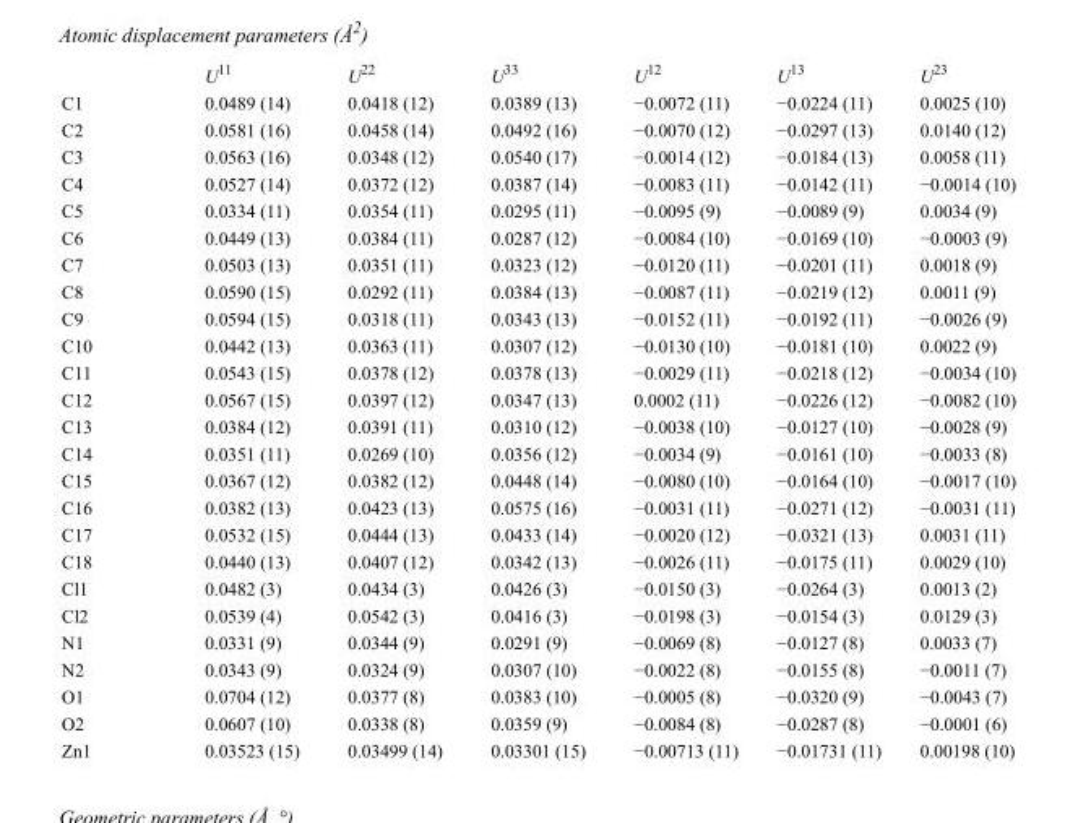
<table><thead><tr><td></td><td>U<sup>11</sup></td><td>U<sup>22</sup></td><td>U<sup>33</sup></td><td>U<sup>12</sup></td><td>U<sup>13</sup></td><td>U<sup>23</sup></td></tr></thead><tbody><tr><td>C1</td><td>0.0489 (14)</td><td>0.0418 (12)</td><td>0.0389 (13)</td><td>−0.0072 (11)</td><td>−0.0224 (11)</td><td>0.0025 (10)</td></tr><tr><td>C2</td><td>0.0581 (16)</td><td>0.0458 (14)</td><td>0.0492 (16)</td><td>−0.0070 (12)</td><td>−0.0297 (13)</td><td>0.0140 (12)</td></tr><tr><td>C3</td><td>0.0563 (16)</td><td>0.0348 (12)</td><td>0.0540 (17)</td><td>−0.0014 (12)</td><td>−0.0184 (13)</td><td>0.0058 (11)</td></tr><tr><td>C4</td><td>0.0527 (14)</td><td>0.0372 (12)</td><td>0.0387 (14)</td><td>−0.0083 (11)</td><td>−0.0142 (11)</td><td>−0.0014 (10)</td></tr><tr><td>C5</td><td>0.0334 (11)</td><td>0.0354 (11)</td><td>0.0295 (11)</td><td>−0.0095 (9)</td><td>−0.0089 (9)</td><td>0.0034 (9)</td></tr><tr><td>C6</td><td>0.0449 (13)</td><td>0.0384 (11)</td><td>0.0287 (12)</td><td>−0.0084 (10)</td><td>−0.0169 (10)</td><td>−0.0003 (9)</td></tr><tr><td>C7</td><td>0.0503 (13)</td><td>0.0351 (11)</td><td>0.0323 (12)</td><td>−0.0120 (11)</td><td>−0.0201 (11)</td><td>0.0018 (9)</td></tr><tr><td>C8</td><td>0.0590 (15)</td><td>0.0292 (11)</td><td>0.0384 (13)</td><td>−0.0087 (11)</td><td>−0.0219 (12)</td><td>0.0011 (9)</td></tr><tr><td>C9</td><td>0.0594 (15)</td><td>0.0318 (11)</td><td>0.0343 (13)</td><td>−0.0152 (11)</td><td>−0.0192 (11)</td><td>−0.0026 (9)</td></tr><tr><td>C10</td><td>0.0442 (13)</td><td>0.0363 (11)</td><td>0.0307 (12)</td><td>−0.0130 (10)</td><td>−0.0181 (10)</td><td>0.0022 (9)</td></tr><tr><td>C11</td><td>0.0543 (15)</td><td>0.0378 (12)</td><td>0.0378 (13)</td><td>−0.0029 (11)</td><td>−0.0218 (12)</td><td>−0.0034 (10)</td></tr><tr><td>C12</td><td>0.0567 (15)</td><td>0.0397 (12)</td><td>0.0347 (13)</td><td>0.0002 (11)</td><td>−0.0226 (12)</td><td>−0.0082 (10)</td></tr><tr><td>C13</td><td>0.0384 (12)</td><td>0.0391 (11)</td><td>0.0310 (12)</td><td>−0.0038 (10)</td><td>−0.0127 (10)</td><td>−0.0028 (9)</td></tr><tr><td>C14</td><td>0.0351 (11)</td><td>0.0269 (10)</td><td>0.0356 (12)</td><td>−0.0034 (9)</td><td>−0.0161 (10)</td><td>−0.0033 (8)</td></tr><tr><td>C15</td><td>0.0367 (12)</td><td>0.0382 (12)</td><td>0.0448 (14)</td><td>−0.0080 (10)</td><td>−0.0164 (10)</td><td>−0.0017 (10)</td></tr><tr><td>C16</td><td>0.0382 (13)</td><td>0.0423 (13)</td><td>0.0575 (16)</td><td>−0.0031 (11)</td><td>−0.0271 (12)</td><td>−0.0031 (11)</td></tr><tr><td>C17</td><td>0.0532 (15)</td><td>0.0444 (13)</td><td>0.0433 (14)</td><td>−0.0020 (12)</td><td>−0.0321 (13)</td><td>0.0031 (11)</td></tr><tr><td>C18</td><td>0.0440 (13)</td><td>0.0407 (12)</td><td>0.0342 (13)</td><td>−0.0026 (11)</td><td>−0.0175 (11)</td><td>0.0029 (10)</td></tr><tr><td>Cl1</td><td>0.0482 (3)</td><td>0.0434 (3)</td><td>0.0426 (3)</td><td>−0.0150 (3)</td><td>−0.0264 (3)</td><td>0.0013 (2)</td></tr><tr><td>Cl2</td><td>0.0539 (4)</td><td>0.0542 (3)</td><td>0.0416 (3)</td><td>−0.0198 (3)</td><td>−0.0154 (3)</td><td>0.0129 (3)</td></tr><tr><td>N1</td><td>0.0331 (9)</td><td>0.0344 (9)</td><td>0.0291 (9)</td><td>−0.0069 (8)</td><td>−0.0127 (8)</td><td>0.0033 (7)</td></tr><tr><td>N2</td><td>0.0343 (9)</td><td>0.0324 (9)</td><td>0.0307 (10)</td><td>−0.0022 (8)</td><td>−0.0155 (8)</td><td>−0.0011 (7)</td></tr><tr><td>O1</td><td>0.0704 (12)</td><td>0.0377 (8)</td><td>0.0383 (10)</td><td>−0.0005 (8)</td><td>−0.0320 (9)</td><td>−0.0043 (7)</td></tr><tr><td>O2</td><td>0.0607 (10)</td><td>0.0338 (8)</td><td>0.0359 (9)</td><td>−0.0084 (8)</td><td>−0.0287 (8)</td><td>−0.0001 (6)</td></tr><tr><td>Zn1</td><td>0.03523 (15)</td><td>0.03499 (14)</td><td>0.03301 (15)</td><td>−0.00713 (11)</td><td>−0.01731 (11)</td><td>0.00198 (10)</td></tr></tbody></table>